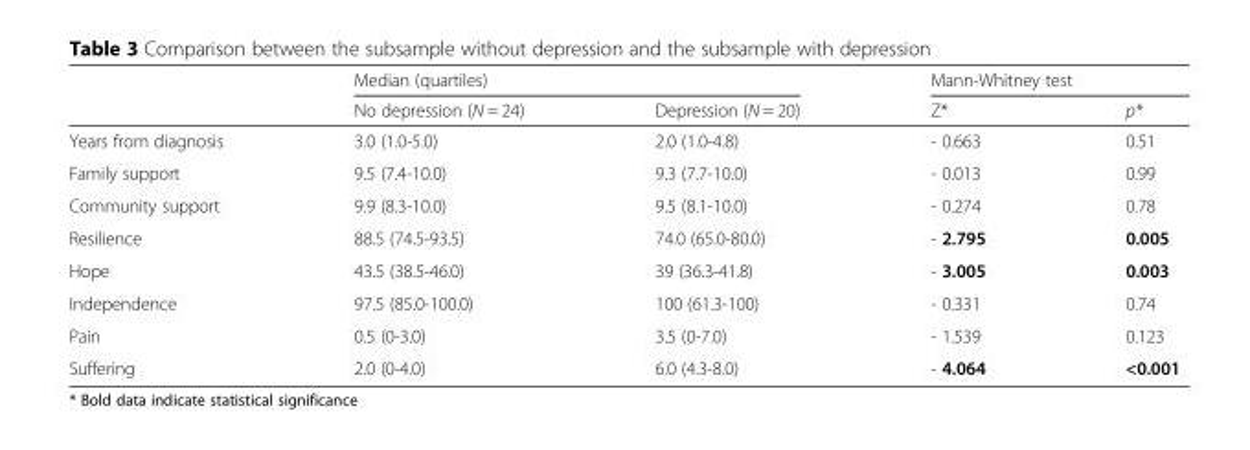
<table><thead><tr><td rowspan="2"></td><td colspan="2">Median (quartiles)</td><td colspan="2">Mann-Whitney test</td></tr><tr><td>No depression (N = 24)</td><td>Depression (N = 20)</td><td>Z*</td><td>p*</td></tr></thead><tbody><tr><td>Years from diagnosis</td><td>3.0 (1.0-5.0)</td><td>2.0 (1.0-4.8)</td><td>- 0.663</td><td>0.51</td></tr><tr><td>Family support</td><td>9.5 (7.4-10.0)</td><td>9.3 (7.7-10.0)</td><td>- 0.013</td><td>0.99</td></tr><tr><td>Community support</td><td>9.9 (8.3-10.0)</td><td>9.5 (8.1-10.0)</td><td>- 0.274</td><td>0.78</td></tr><tr><td>Resilience</td><td>88.5 (74.5-93.5)</td><td>74.0 (65.0-80.0)</td><td>- 2.795</td><td>0.005</td></tr><tr><td>Hope</td><td>43.5 (38.5-46.0)</td><td>39 (36.3-41.8)</td><td>- 3.005</td><td>0.003</td></tr><tr><td>Independence</td><td>97.5 (85.0-100.0)</td><td>100 (61.3-100)</td><td>- 0.331</td><td>0.74</td></tr><tr><td>Pain</td><td>0.5 (0-3.0)</td><td>3.5 (0-7.0)</td><td>- 1.539</td><td>0.123</td></tr><tr><td>Suffering</td><td>2.0 (0-4.0)</td><td>6.0 (4.3-8.0)</td><td>- 4.064</td><td>&lt;0.001</td></tr></tbody></table>